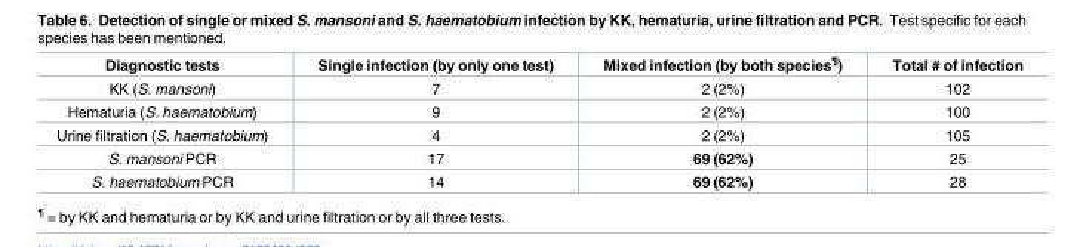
<table><thead><tr><td>Diagnostic tests</td><td>Single infection (by only one test)</td><td>Mixed infection (by both species<sup>¶</sup>)</td><td>Total # of infection</td></tr></thead><tbody><tr><td>KK (S. mansoni)</td><td>7</td><td>2 (2%)</td><td>102</td></tr><tr><td>Hematuria (S. haematobium)</td><td>9</td><td>2 (2%)</td><td>100</td></tr><tr><td>Urine filtration (S. haematobium)</td><td>4</td><td>2 (2%)</td><td>105</td></tr><tr><td>S. mansoni PCR</td><td>17</td><td>69 (62%)</td><td>25</td></tr><tr><td>S. haematobium PCR</td><td>14</td><td>69 (62%)</td><td>28</td></tr></tbody></table>